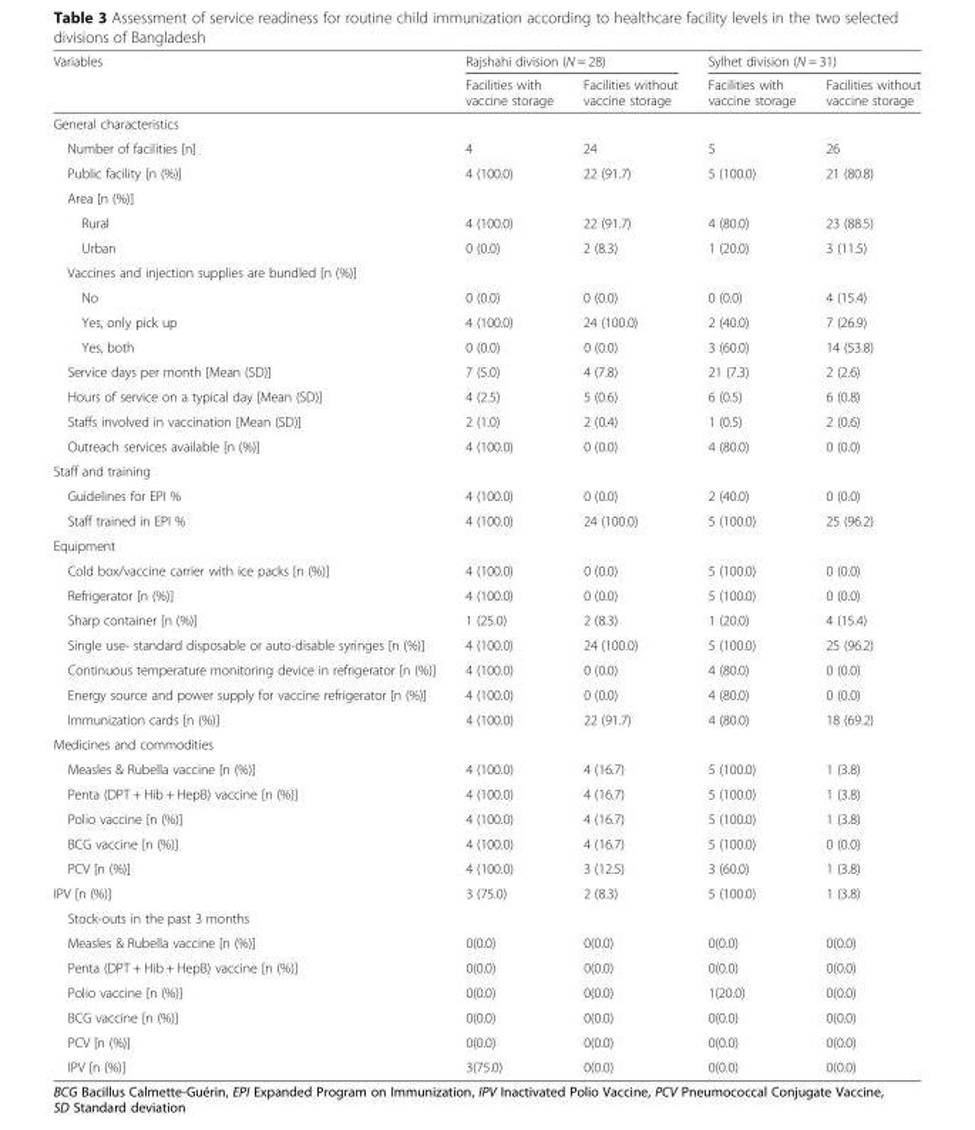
<table><thead><tr><td rowspan="2">Variables</td><td colspan="2">Rajshahi division (N = 28)</td><td colspan="2">Sylhet division (N = 31)</td></tr><tr><td>Facilities with vaccine storage</td><td>Facilities without vaccine storage</td><td>Facilities with vaccine storage</td><td>Facilities without vaccine storage</td></tr></thead><tbody><tr><td colspan="5">General characteristics</td></tr><tr><td>Number of facilities [n]</td><td>4</td><td>24</td><td>5</td><td>26</td></tr><tr><td>Public facility [n (%)]</td><td>4 (100.0)</td><td>22 (91.7)</td><td>5 (100.0)</td><td>21 (80.8)</td></tr><tr><td colspan="5">Area [n (%)]</td></tr><tr><td>Rural</td><td>4 (100.0)</td><td>22 (91.7)</td><td>4 (80.0)</td><td>23 (88.5)</td></tr><tr><td>Urban</td><td>0 (0.0)</td><td>2 (8.3)</td><td>1 (20.0)</td><td>3 (11.5)</td></tr><tr><td colspan="5">Vaccines and injection supplies are bundled [n (%)]</td></tr><tr><td>No</td><td>0 (0.0)</td><td>0 (0.0)</td><td>0 (0.0)</td><td>4 (15.4)</td></tr><tr><td>Yes, only pick up</td><td>4 (100.0)</td><td>24 (100.0)</td><td>2 (40.0)</td><td>7 (26.9)</td></tr><tr><td>Yes, both</td><td>0 (0.0)</td><td>0 (0.0)</td><td>3 (60.0)</td><td>14 (53.8)</td></tr><tr><td>Service days per month [Mean (SD)]</td><td>7 (5.0)</td><td>4 (7.8)</td><td>21 (7.3)</td><td>2 (2.6)</td></tr><tr><td>Hours of service on a typical day [Mean (SD)]</td><td>4 (2.5)</td><td>5 (0.6)</td><td>6 (0.5)</td><td>6 (0.8)</td></tr><tr><td>Staffs involved in vaccination [Mean (SD)]</td><td>2 (1.0)</td><td>2 (0.4)</td><td>1 (0.5)</td><td>2 (0.6)</td></tr><tr><td>Outreach services available [n (%)]</td><td>4 (100.0)</td><td>0 (0.0)</td><td>4 (80.0)</td><td>0 (0.0)</td></tr><tr><td colspan="5">Staff and training</td></tr><tr><td>Guidelines for EPI %</td><td>4 (100.0)</td><td>0 (0.0)</td><td>2 (40.0)</td><td>0 (0.0)</td></tr><tr><td>Staff trained in EPI %</td><td>4 (100.0)</td><td>24 (100.0)</td><td>5 (100.0)</td><td>25 (96.2)</td></tr><tr><td colspan="5">Equipment</td></tr><tr><td>Cold box/vaccine carrier with ice packs [n (%)]</td><td>4 (100.0)</td><td>0 (0.0)</td><td>5 (100.0)</td><td>0 (0.0)</td></tr><tr><td>Refrigerator [n (%)]</td><td>4 (100.0)</td><td>0 (0.0)</td><td>5 (100.0)</td><td>0 (0.0)</td></tr><tr><td>Sharp container [n (%)]</td><td>1 (25.0)</td><td>2 (8.3)</td><td>1 (20.0)</td><td>4 (15.4)</td></tr><tr><td>Single use- standard disposable or auto-disable syringes [n (%)]</td><td>4 (100.0)</td><td>24 (100.0)</td><td>5 (100.0)</td><td>25 (96.2)</td></tr><tr><td>Continuous temperature monitoring device in refrigerator [n (%)]</td><td>4 (100.0)</td><td>0 (0.0)</td><td>4 (80.0)</td><td>0 (0.0)</td></tr><tr><td>Energy source and power supply for vaccine refrigerator [n (%)]</td><td>4 (100.0)</td><td>0 (0.0)</td><td>4 (80.0)</td><td>0 (0.0)</td></tr><tr><td>Immunization cards [n (%)]</td><td>4 (100.0)</td><td>22 (91.7)</td><td>4 (80.0)</td><td>18 (69.2)</td></tr><tr><td colspan="5">Medicines and commodities</td></tr><tr><td>Measles &amp; Rubella vaccine [n (%)]</td><td>4 (100.0)</td><td>4 (16.7)</td><td>5 (100.0)</td><td>1 (3.8)</td></tr><tr><td>Penta (DPT + Hib + HepB) vaccine [n (%)]</td><td>4 (100.0)</td><td>4 (16.7)</td><td>5 (100.0)</td><td>1 (3.8)</td></tr><tr><td>Polio vaccine [n (%)]</td><td>4 (100.0)</td><td>4 (16.7)</td><td>5 (100.0)</td><td>1 (3.8)</td></tr><tr><td>BCG vaccine [n (%)]</td><td>4 (100.0)</td><td>4 (16.7)</td><td>5 (100.0)</td><td>0 (0.0)</td></tr><tr><td>PCV [n (%)]</td><td>4 (100.0)</td><td>3 (12.5)</td><td>3 (60.0)</td><td>1 (3.8)</td></tr><tr><td>IPV [n (%)]</td><td>3 (75.0)</td><td>2 (8.3)</td><td>5 (100.0)</td><td>1 (3.8)</td></tr><tr><td colspan="5">Stock-outs in the past 3 months</td></tr><tr><td>Measles &amp; Rubella vaccine [n (%)]</td><td>0(0.0)</td><td>0(0.0)</td><td>0(0.0)</td><td>0(0.0)</td></tr><tr><td>Penta (DPT + Hib + HepB) vaccine [n (%)]</td><td>0(0.0)</td><td>0(0.0)</td><td>0(0.0)</td><td>0(0.0)</td></tr><tr><td>Polio vaccine [n (%)]</td><td>0(0.0)</td><td>0(0.0)</td><td>1(20.0)</td><td>0(0.0)</td></tr><tr><td>BCG vaccine [n (%)]</td><td>0(0.0)</td><td>0(0.0)</td><td>0(0.0)</td><td>0(0.0)</td></tr><tr><td>PCV [n (%)]</td><td>0(0.0)</td><td>0(0.0)</td><td>0(0.0)</td><td>0(0.0)</td></tr><tr><td>IPV [n (%)]</td><td>3(75.0)</td><td>0(0.0)</td><td>0(0.0)</td><td>0(0.0)</td></tr></tbody></table>